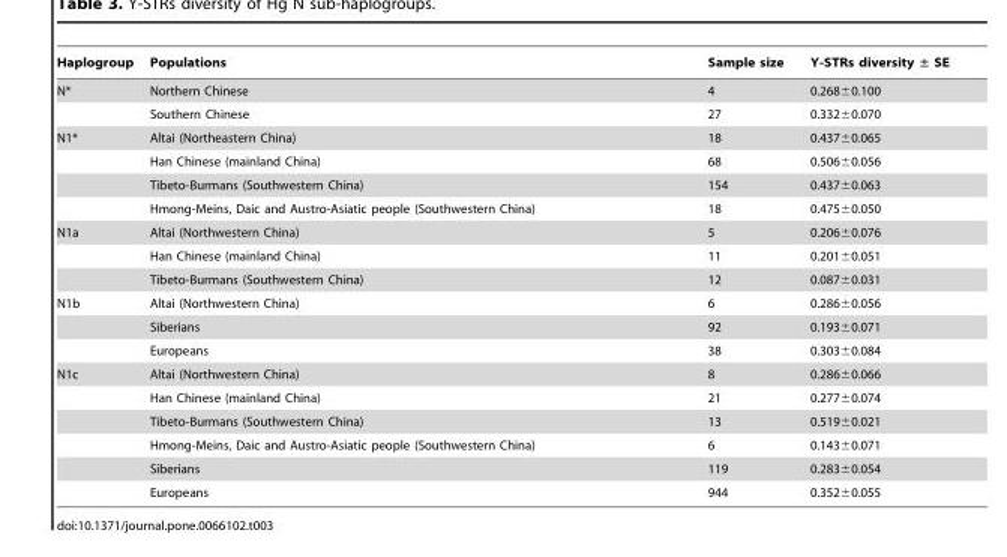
<table><thead><tr><td>Haplogroup</td><td>Populations</td><td>Sample size</td><td>Y-STRs diversity ± SE</td></tr></thead><tbody><tr><td rowspan="2">N*</td><td>Northern Chinese</td><td>4</td><td>0.268±0.100</td></tr><tr><td>Southern Chinese</td><td>27</td><td>0.332±0.070</td></tr><tr><td rowspan="4">N1*</td><td>Altai (Northeastern China)</td><td>18</td><td>0.437±0.065</td></tr><tr><td>Han Chinese (mainland China)</td><td>68</td><td>0.506±0.056</td></tr><tr><td>Tibeto-Burmans (Southwestern China)</td><td>154</td><td>0.437±0.063</td></tr><tr><td>Hmong-Meins, Daic and Austro-Asiatic people (Southwestern China)</td><td>18</td><td>0.475±0.050</td></tr><tr><td rowspan="3">N1a</td><td>Altai (Northwestern China)</td><td>5</td><td>0.206±0.076</td></tr><tr><td>Han Chinese (mainland China)</td><td>11</td><td>0.201±0.051</td></tr><tr><td>Tibeto-Burmans (Southwestern China)</td><td>12</td><td>0.087±0.031</td></tr><tr><td rowspan="3">N1b</td><td>Altai (Northwestern China)</td><td>6</td><td>0.286±0.056</td></tr><tr><td>Siberians</td><td>92</td><td>0.193±0.071</td></tr><tr><td>Europeans</td><td>38</td><td>0.303±0.084</td></tr><tr><td rowspan="6">N1c</td><td>Altai (Northwestern China)</td><td>8</td><td>0.286±0.066</td></tr><tr><td>Han Chinese (mainland China)</td><td>21</td><td>0.277±0.074</td></tr><tr><td>Tibeto-Burmans (Southwestern China)</td><td>13</td><td>0.519±0.021</td></tr><tr><td>Hmong-Meins, Daic and Austro-Asiatic people (Southwestern China)</td><td>6</td><td>0.143±0.071</td></tr><tr><td>Siberians</td><td>119</td><td>0.283±0.054</td></tr><tr><td>Europeans</td><td>944</td><td>0.352±0.055</td></tr></tbody></table>